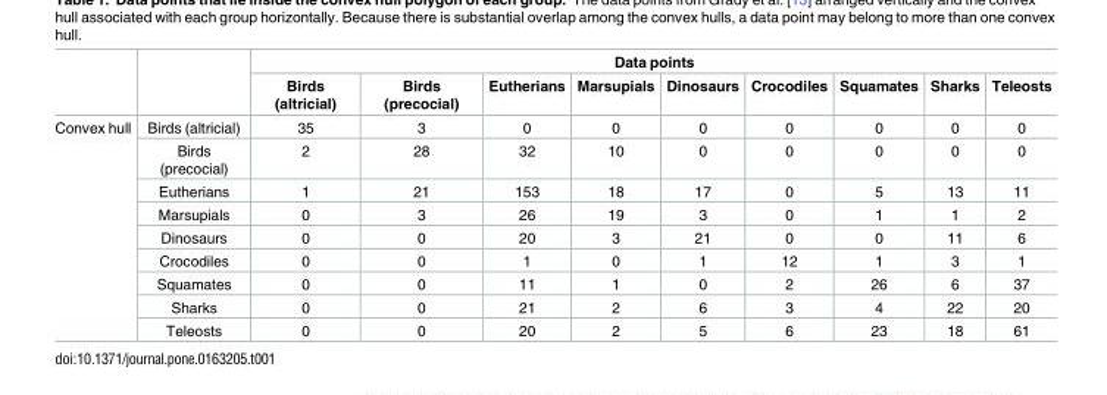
<table><thead><tr><td rowspan="2"></td><td rowspan="2"></td><td colspan="9">Data points</td></tr><tr><td>Birds (altricial)</td><td>Birds (precocial)</td><td>Eutherians</td><td>Marsupials</td><td>Dinosaurs</td><td>Crocodiles</td><td>Squamates</td><td>Sharks</td><td>Teleosts</td></tr></thead><tbody><tr><td rowspan="9">Convex hull</td><td>Birds (altricial)</td><td>35</td><td>3</td><td>0</td><td>0</td><td>0</td><td>0</td><td>0</td><td>0</td><td>0</td></tr><tr><td>Birds (precocial)</td><td>2</td><td>28</td><td>32</td><td>10</td><td>0</td><td>0</td><td>0</td><td>0</td><td>0</td></tr><tr><td>Eutherians</td><td>1</td><td>21</td><td>153</td><td>18</td><td>17</td><td>0</td><td>5</td><td>13</td><td>11</td></tr><tr><td>Marsupials</td><td>0</td><td>3</td><td>26</td><td>19</td><td>3</td><td>0</td><td>1</td><td>1</td><td>2</td></tr><tr><td>Dinosaurs</td><td>0</td><td>0</td><td>20</td><td>3</td><td>21</td><td>0</td><td>0</td><td>11</td><td>6</td></tr><tr><td>Crocodiles</td><td>0</td><td>0</td><td>1</td><td>0</td><td>1</td><td>12</td><td>1</td><td>3</td><td>1</td></tr><tr><td>Squamates</td><td>0</td><td>0</td><td>11</td><td>1</td><td>0</td><td>2</td><td>26</td><td>6</td><td>37</td></tr><tr><td>Sharks</td><td>0</td><td>0</td><td>21</td><td>2</td><td>6</td><td>3</td><td>4</td><td>22</td><td>20</td></tr><tr><td>Teleosts</td><td>0</td><td>0</td><td>20</td><td>2</td><td>5</td><td>6</td><td>23</td><td>18</td><td>61</td></tr></tbody></table>